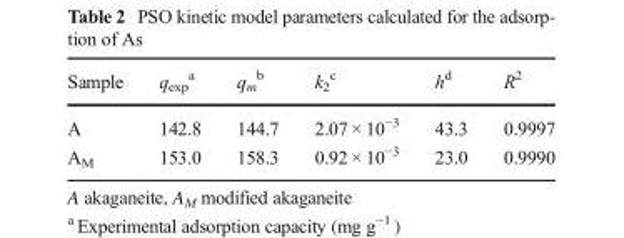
<table><thead><tr><td>Sample</td><td>q<sub>exp</sub> <sup>a</sup></td><td>q<sub>m</sub> <sup>b</sup></td><td>k<sub>2</sub> <sup>c</sup></td><td>h<sup>d</sup></td><td>R<sup>2</sup></td></tr></thead><tbody><tr><td>A</td><td>142.8</td><td>144.7</td><td>2.07 × 10<sup>−3</sup></td><td>43.3</td><td>0.9997</td></tr><tr><td>A<sub>M</sub></td><td>153.0</td><td>158.3</td><td>0.92 × 10<sup>−3</sup></td><td>23.0</td><td>0.9990</td></tr></tbody></table>